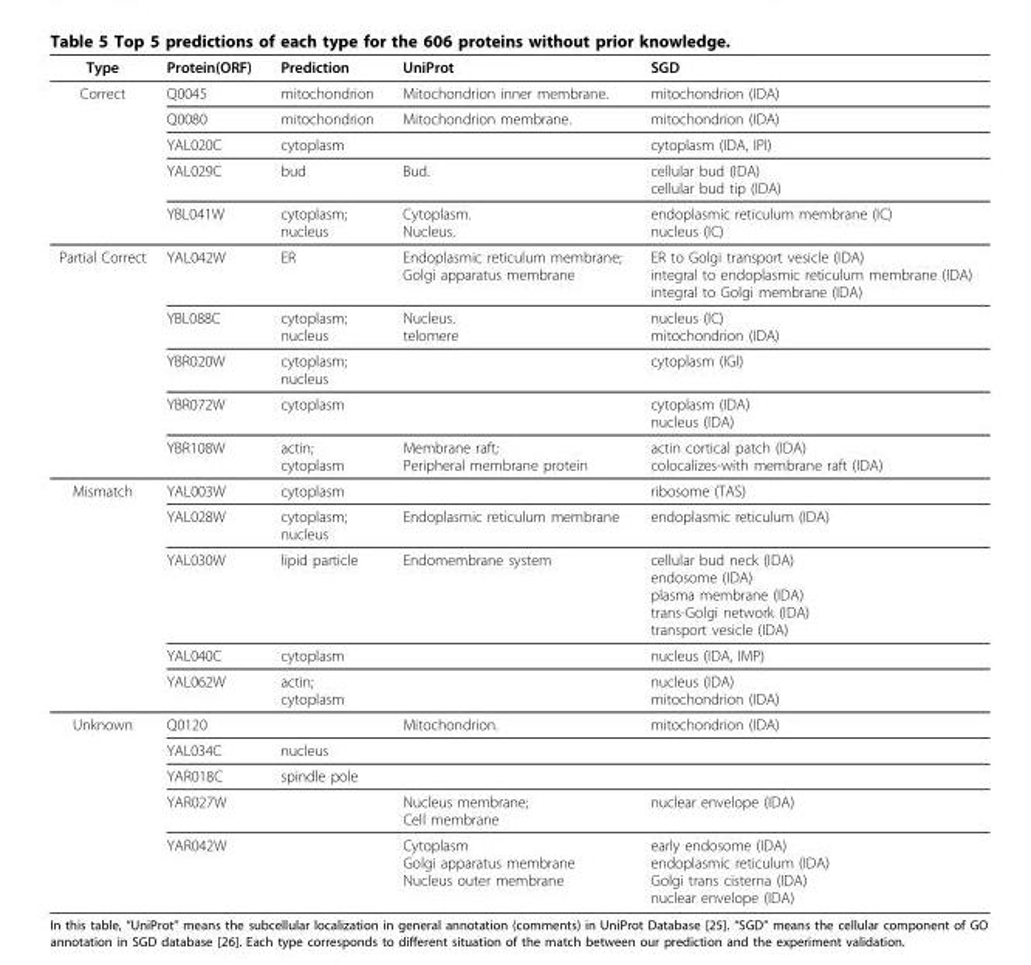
<table><thead><tr><td>Type</td><td>Protein(ORF)</td><td>Prediction</td><td>UniProt</td><td>SGD</td></tr></thead><tbody><tr><td rowspan="5">Correct</td><td>Q0045</td><td>mitochondrion</td><td>Mitochondrion inner membrane.</td><td>mitochondrion (IDA)</td></tr><tr><td>Q0080</td><td>mitochondrion</td><td>Mitochondrion membrane.</td><td>mitochondrion (IDA)</td></tr><tr><td>YAL020C</td><td>cytoplasm</td><td></td><td>cytoplasm (IDA, IPI)</td></tr><tr><td>YAL029C</td><td>bud</td><td>Bud.</td><td>cellular bud (IDA) cellular bud tip (IDA)</td></tr><tr><td>YBL041W</td><td>cytoplasm; nucleus</td><td>Cytoplasm. Nucleus.</td><td>endoplasmic reticulum membrane (IC) nucleus (IC)</td></tr><tr><td rowspan="5">Partial Correct</td><td>YAL042W</td><td>ER</td><td>Endoplasmic reticulum membrane; Golgi apparatus membrane</td><td>ER to Golgi transport vesicle (IDA) integral to endoplasmic reticulum membrane (IDA) integral to Golgi membrane (IDA)</td></tr><tr><td>YBL088C</td><td>cytoplasm; nucleus</td><td>Nucleus. telomere</td><td>nucleus (IC) mitochondrion (IDA)</td></tr><tr><td>YBR020W</td><td>cytoplasm; nucleus</td><td></td><td>cytoplasm (IGI)</td></tr><tr><td>YBR072W</td><td>cytoplasm</td><td></td><td>cytoplasm (IDA) nucleus (IDA)</td></tr><tr><td>YBR108W</td><td>actin; cytoplasm</td><td>Membrane raft; Peripheral membrane protein</td><td>actin cortical patch (IDA) colocalizes-with membrane raft (IDA)</td></tr><tr><td rowspan="5">Mismatch</td><td>YAL003W</td><td>cytoplasm</td><td></td><td>ribosome (TAS)</td></tr><tr><td>YAL028W</td><td>cytoplasm; nucleus</td><td>Endoplasmic reticulum membrane</td><td>endoplasmic reticulum (IDA)</td></tr><tr><td>YAL030W</td><td>lipid particle</td><td>Endomembrane system</td><td>cellular bud neck (IDA) endosome (IDA) plasma membrane (IDA) trans-Golgi network (IDA) transport vesicle (IDA)</td></tr><tr><td>YAL040C</td><td>cytoplasm</td><td></td><td>nucleus (IDA, IMP)</td></tr><tr><td>YAL062W</td><td>actin; cytoplasm</td><td></td><td>nucleus (IDA) mitochondrion (IDA)</td></tr><tr><td rowspan="5">Unknown</td><td>Q0120</td><td></td><td>Mitochondrion.</td><td>mitochondrion (IDA)</td></tr><tr><td>YAL034C</td><td>nucleus</td><td></td><td></td></tr><tr><td>YAR018C</td><td>spindle pole</td><td></td><td></td></tr><tr><td>YAR027W</td><td></td><td>Nucleus membrane; Cell membrane</td><td>nuclear envelope (IDA)</td></tr><tr><td>YAR042W</td><td></td><td>Cytoplasm Golgi apparatus membrane Nucleus outer membrane</td><td>early endosome (IDA) endoplasmic reticulum (IDA) Golgi trans cisterna (IDA) nuclear envelope (IDA)</td></tr></tbody></table>